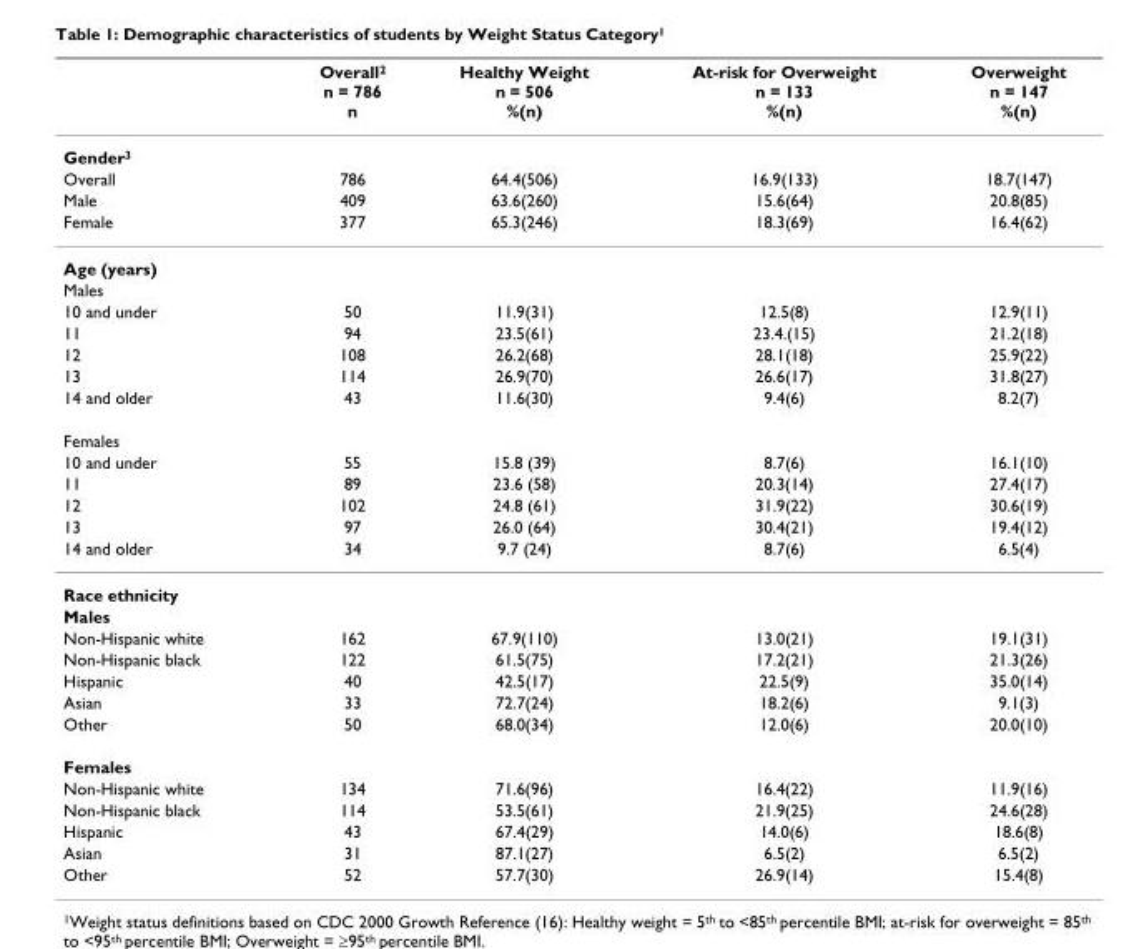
<table><thead><tr><td></td><td>Overall<sup>2</sup> n = 786 n</td><td>Healthy Weight n = 506 %(n)</td><td>At-risk for Overweight n = 133 %(n)</td><td>Overweight n = 147 %(n)</td></tr></thead><tbody><tr><td colspan="5">Gender<sup>3</sup></td></tr><tr><td>Overall</td><td>786</td><td>64.4(506)</td><td>16.9(133)</td><td>18.7(147)</td></tr><tr><td>Male</td><td>409</td><td>63.6(260)</td><td>15.6(64)</td><td>20.8(85)</td></tr><tr><td>Female</td><td>377</td><td>65.3(246)</td><td>18.3(69)</td><td>16.4(62)</td></tr><tr><td colspan="5">Age (years)</td></tr><tr><td colspan="5">Males</td></tr><tr><td>10 and under</td><td>50</td><td>11.9(31)</td><td>12.5(8)</td><td>12.9(11)</td></tr><tr><td>11</td><td>94</td><td>23.5(61)</td><td>23.4.(15)</td><td>21.2(18)</td></tr><tr><td>12</td><td>108</td><td>26.2(68)</td><td>28.1(18)</td><td>25.9(22)</td></tr><tr><td>13</td><td>114</td><td>26.9(70)</td><td>26.6(17)</td><td>31.8(27)</td></tr><tr><td>14 and older</td><td>43</td><td>11.6(30)</td><td>9.4(6)</td><td>8.2(7)</td></tr><tr><td colspan="5">Females</td></tr><tr><td>10 and under</td><td>55</td><td>15.8 (39)</td><td>8.7(6)</td><td>16.1(10)</td></tr><tr><td>11</td><td>89</td><td>23.6 (58)</td><td>20.3(14)</td><td>27.4(17)</td></tr><tr><td>12</td><td>102</td><td>24.8 (61)</td><td>31.9(22)</td><td>30.6(19)</td></tr><tr><td>13</td><td>97</td><td>26.0 (64)</td><td>30.4(21)</td><td>19.4(12)</td></tr><tr><td>14 and older</td><td>34</td><td>9.7 (24)</td><td>8.7(6)</td><td>6.5(4)</td></tr><tr><td colspan="5">Race ethnicity</td></tr><tr><td colspan="5">Males</td></tr><tr><td>Non-Hispanic white</td><td>162</td><td>67.9(110)</td><td>13.0(21)</td><td>19.1(31)</td></tr><tr><td>Non-Hispanic black</td><td>122</td><td>61.5(75)</td><td>17.2(21)</td><td>21.3(26)</td></tr><tr><td>Hispanic</td><td>40</td><td>42.5(17)</td><td>22.5(9)</td><td>35.0(14)</td></tr><tr><td>Asian</td><td>33</td><td>72.7(24)</td><td>18.2(6)</td><td>9.1(3)</td></tr><tr><td>Other</td><td>50</td><td>68.0(34)</td><td>12.0(6)</td><td>20.0(10)</td></tr><tr><td colspan="5">Females</td></tr><tr><td>Non-Hispanic white</td><td>134</td><td>71.6(96)</td><td>16.4(22)</td><td>11.9(16)</td></tr><tr><td>Non-Hispanic black</td><td>114</td><td>53.5(61)</td><td>21.9(25)</td><td>24.6(28)</td></tr><tr><td>Hispanic</td><td>43</td><td>67.4(29)</td><td>14.0(6)</td><td>18.6(8)</td></tr><tr><td>Asian</td><td>31</td><td>87.1(27)</td><td>6.5(2)</td><td>6.5(2)</td></tr><tr><td>Other</td><td>52</td><td>57.7(30)</td><td>26.9(14)</td><td>15.4(8)</td></tr></tbody></table>